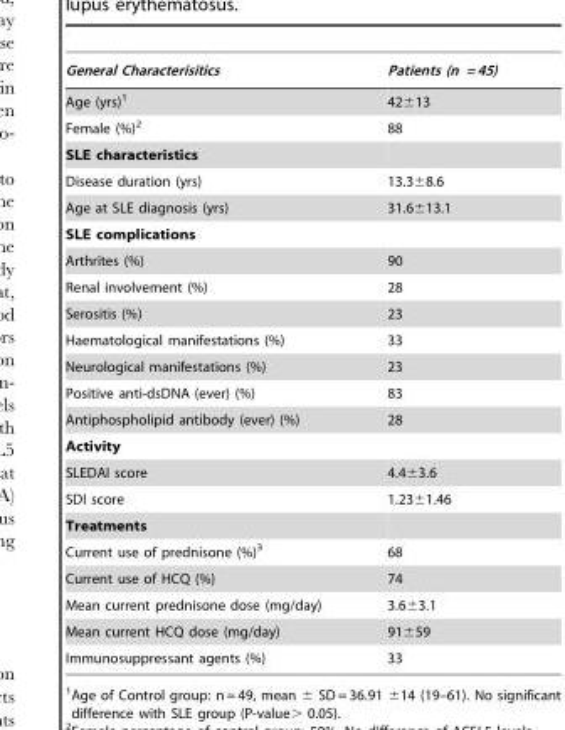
<table><thead><tr><td>General Characterisitics</td><td>Patients (n = 45)</td></tr></thead><tbody><tr><td>Age (yrs)<sup>1</sup></td><td>42±13</td></tr><tr><td>Female (%)<sup>2</sup></td><td>88</td></tr><tr><td colspan="2">SLE characteristics</td></tr><tr><td>Disease duration (yrs)</td><td>13.3±8.6</td></tr><tr><td>Age at SLE diagnosis (yrs)</td><td>31.6±13.1</td></tr><tr><td colspan="2">SLE complications</td></tr><tr><td>Arthrites (%)</td><td>90</td></tr><tr><td>Renal involvement (%)</td><td>28</td></tr><tr><td>Serositis (%)</td><td>23</td></tr><tr><td>Haematological manifestations (%)</td><td>33</td></tr><tr><td>Neurological manifestations (%)</td><td>23</td></tr><tr><td>Positive anti-dsDNA (ever) (%)</td><td>83</td></tr><tr><td>Antiphospholipid antibody (ever) (%)</td><td>28</td></tr><tr><td colspan="2">Activity</td></tr><tr><td>SLEDAI score</td><td>4.4±3.6</td></tr><tr><td>SDI score</td><td>1.23±1.46</td></tr><tr><td colspan="2">Treatments</td></tr><tr><td>Current use of prednisone (%)<sup>3</sup></td><td>68</td></tr><tr><td>Current use of HCQ (%)</td><td>74</td></tr><tr><td>Mean current prednisone dose (mg/day)</td><td>3.6±3.1</td></tr><tr><td>Mean current HCQ dose (mg/day)</td><td>91±59</td></tr><tr><td>Immunosuppressant agents (%)</td><td>33</td></tr></tbody></table>